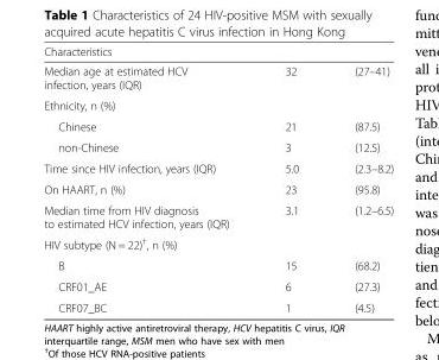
<table><thead><tr><td>Characteristics</td><td></td><td></td></tr></thead><tbody><tr><td>Median age at estimated HCV infection, years (IQR)</td><td>32</td><td>(27–41)</td></tr><tr><td colspan="3">Ethnicity, n (%)</td></tr><tr><td>Chinese</td><td>21</td><td>(87.5)</td></tr><tr><td>non-Chinese</td><td>3</td><td>(12.5)</td></tr><tr><td>Time since HIV infection, years (IQR)</td><td>5.0</td><td>(2.3–8.2)</td></tr><tr><td>On HAART, n (%)</td><td>23</td><td>(95.8)</td></tr><tr><td>Median time from HIV diagnosis to estimated HCV infection, years (IQR)</td><td>3.1</td><td>(1.2–6.5)</td></tr><tr><td colspan="3">HIV subtype (N = 22)<sup>†</sup>, n (%)</td></tr><tr><td>B</td><td>15</td><td>(68.2)</td></tr><tr><td>CRF01_AE</td><td>6</td><td>(27.3)</td></tr><tr><td>CRF07_BC</td><td>1</td><td>(4.5)</td></tr></tbody></table>